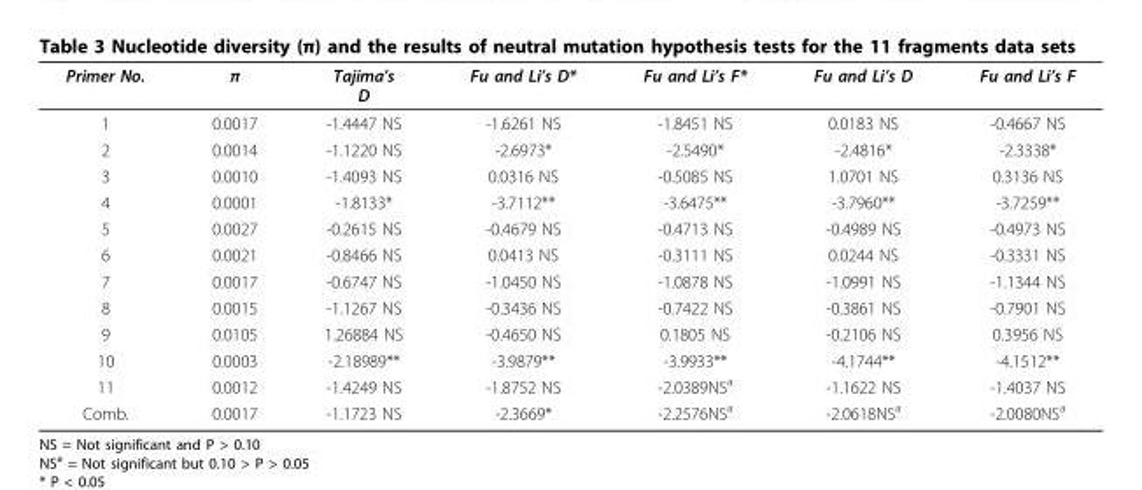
<table><thead><tr><td>Primer No.</td><td>π</td><td>Tajima’s D</td><td>Fu and Li’s D*</td><td>Fu and Li’s F*</td><td>Fu and Li’s D</td><td>Fu and Li’s F</td></tr></thead><tbody><tr><td>1</td><td>0.0017</td><td>-1.4447 NS</td><td>-1.6261 NS</td><td>-1.8451 NS</td><td>0.0183 NS</td><td>-0.4667 NS</td></tr><tr><td>2</td><td>0.0014</td><td>-1.1220 NS</td><td>-2.6973*</td><td>-2.5490*</td><td>-2.4816*</td><td>-2.3338*</td></tr><tr><td>3</td><td>0.0010</td><td>-1.4093 NS</td><td>0.0316 NS</td><td>-0.5085 NS</td><td>1.0701 NS</td><td>0.3136 NS</td></tr><tr><td>4</td><td>0.0001</td><td>-1.8133*</td><td>-3.7112**</td><td>-3.6475**</td><td>-3.7960**</td><td>-3.7259**</td></tr><tr><td>5</td><td>0.0027</td><td>-0.2615 NS</td><td>-0.4679 NS</td><td>-0.4713 NS</td><td>-0.4989 NS</td><td>-0.4973 NS</td></tr><tr><td>6</td><td>0.0021</td><td>-0.8466 NS</td><td>0.0413 NS</td><td>-0.3111 NS</td><td>0.0244 NS</td><td>-0.3331 NS</td></tr><tr><td>7</td><td>0.0017</td><td>-0.6747 NS</td><td>-1.0450 NS</td><td>-1.0878 NS</td><td>-1.0991 NS</td><td>-1.1344 NS</td></tr><tr><td>8</td><td>0.0015</td><td>-1.1267 NS</td><td>-0.3436 NS</td><td>-0.7422 NS</td><td>-0.3861 NS</td><td>-0.7901 NS</td></tr><tr><td>9</td><td>0.0105</td><td>1.26884 NS</td><td>-0.4650 NS</td><td>0.1805 NS</td><td>-0.2106 NS</td><td>0.3956 NS</td></tr><tr><td>10</td><td>0.0003</td><td>-2.18989**</td><td>-3.9879**</td><td>-3.9933**</td><td>-4.1744**</td><td>-4.1512**</td></tr><tr><td>11</td><td>0.0012</td><td>-1.4249 NS</td><td>-1.8752 NS</td><td>-2.0389NS<sup>a</sup></td><td>-1.1622 NS</td><td>-1.4037 NS</td></tr><tr><td>Comb.</td><td>0.0017</td><td>-1.1723 NS</td><td>-2.3669*</td><td>-2.2576NS<sup>a</sup></td><td>-2.0618NS<sup>a</sup></td><td>-2.0080NS<sup>a</sup></td></tr></tbody></table>